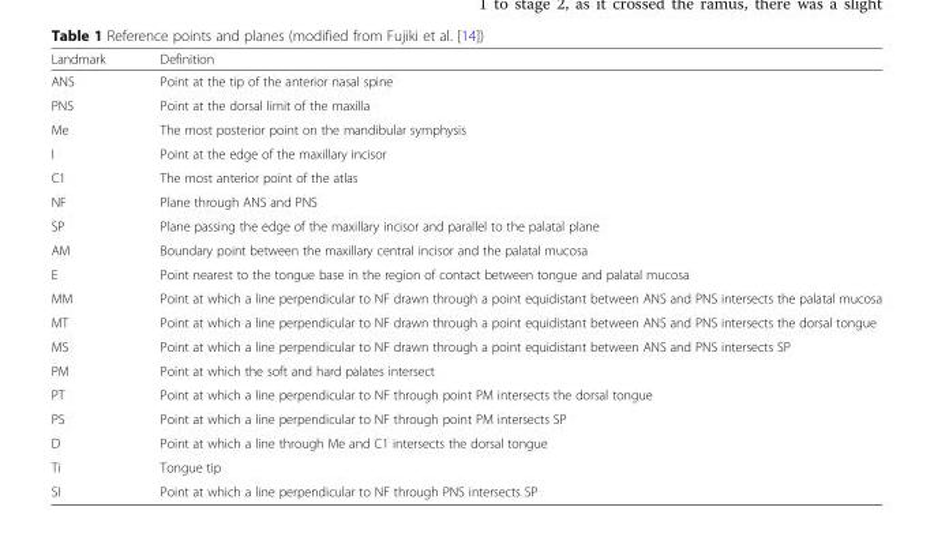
<table><thead><tr><td>Landmark</td><td>Definition</td></tr></thead><tbody><tr><td>ANS</td><td>Point at the tip of the anterior nasal spine</td></tr><tr><td>PNS</td><td>Point at the dorsal limit of the maxilla</td></tr><tr><td>Me</td><td>The most posterior point on the mandibular symphysis</td></tr><tr><td>I</td><td>Point at the edge of the maxillary incisor</td></tr><tr><td>C1</td><td>The most anterior point of the atlas</td></tr><tr><td>NF</td><td>Plane through ANS and PNS</td></tr><tr><td>SP</td><td>Plane passing the edge of the maxillary incisor and parallel to the palatal plane</td></tr><tr><td>AM</td><td>Boundary point between the maxillary central incisor and the palatal mucosa</td></tr><tr><td>E</td><td>Point nearest to the tongue base in the region of contact between tongue and palatal mucosa</td></tr><tr><td>MM</td><td>Point at which a line perpendicular to NF drawn through a point equidistant between ANS and PNS intersects the palatal mucosa</td></tr><tr><td>MT</td><td>Point at which a line perpendicular to NF drawn through a point equidistant between ANS and PNS intersects the dorsal tongue</td></tr><tr><td>MS</td><td>Point at which a line perpendicular to NF drawn through a point equidistant between ANS and PNS intersects SP</td></tr><tr><td>PM</td><td>Point at which the soft and hard palates intersect</td></tr><tr><td>PT</td><td>Point at which a line perpendicular to NF through point PM intersects the dorsal tongue</td></tr><tr><td>PS</td><td>Point at which a line perpendicular to NF through point PM intersects SP</td></tr><tr><td>D</td><td>Point at which a line through Me and C1 intersects the dorsal tongue</td></tr><tr><td>Ti</td><td>Tongue tip</td></tr><tr><td>SI</td><td>Point at which a line perpendicular to NF through PNS intersects SP</td></tr></tbody></table>